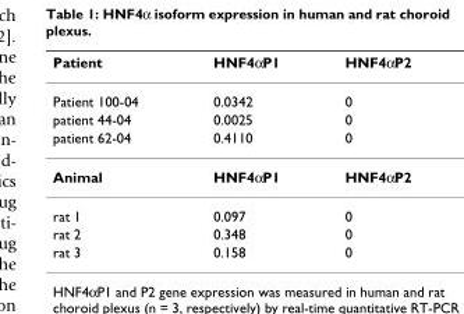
<table><thead><tr><td>Patient</td><td>HNF4αP1</td><td>HNF4αP2</td></tr></thead><tbody><tr><td>Patient 100-04</td><td>0.0342</td><td>0</td></tr><tr><td>patient 44-04</td><td>0.0025</td><td>0</td></tr><tr><td>patient 62-04</td><td>0.4110</td><td>0</td></tr><tr><td>Animal</td><td>HNF4αP1</td><td>HNF4αP2</td></tr><tr><td>rat 1</td><td>0.097</td><td>0</td></tr><tr><td>rat 2</td><td>0.348</td><td>0</td></tr><tr><td>rat 3</td><td>0.158</td><td>0</td></tr></tbody></table>